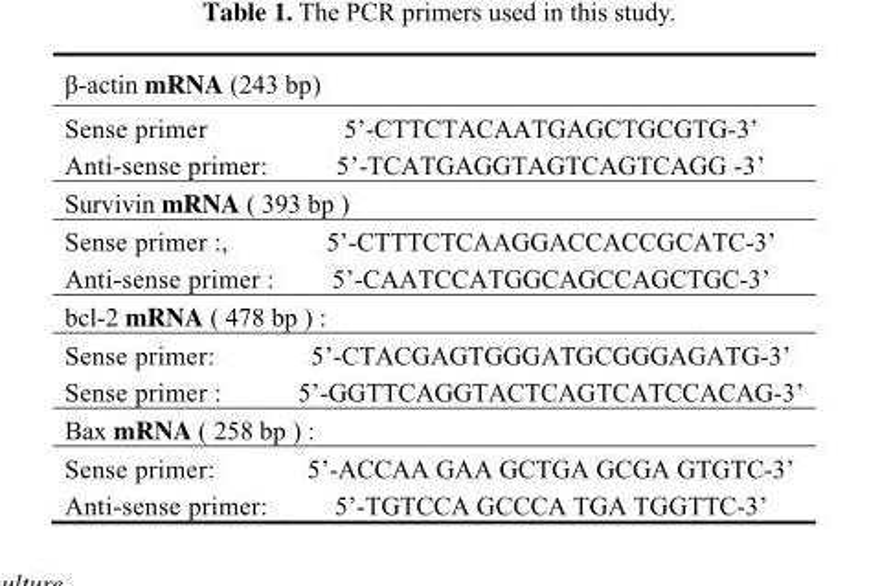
<table><tbody><tr><td colspan="2">β-actin mRNA (243 bp)</td></tr><tr><td>Sense primer</td><td>5’-CTTCTACAATGAGCTGCGTG-3’</td></tr><tr><td>Anti-sense primer:</td><td>5’-TCATGAGGTAGTCAGTCAGG -3’</td></tr><tr><td colspan="2">Survivin mRNA ( 393 bp )</td></tr><tr><td>Sense primer :,</td><td>5’-CTTTCTCAAGGACCACCGCATC-3’</td></tr><tr><td>Anti-sense primer :</td><td>5’-CAATCCATGGCAGCCAGCTGC-3’</td></tr><tr><td colspan="2">bcl-2 mRNA ( 478 bp ) :</td></tr><tr><td>Sense primer:</td><td>5’-CTACGAGTGGGATGCGGGAGATG-3’</td></tr><tr><td>Sense primer :</td><td>5’-GGTTCAGGTACTCAGTCATCCACAG-3’</td></tr><tr><td colspan="2">Bax mRNA ( 258 bp ) :</td></tr><tr><td>Sense primer:</td><td>5’-ACCAA GAA GCTGA GCGA GTGTC-3’</td></tr><tr><td>Anti-sense primer:</td><td>5’-TGTCCA GCCCA TGA TGGTTC-3’</td></tr></tbody></table>